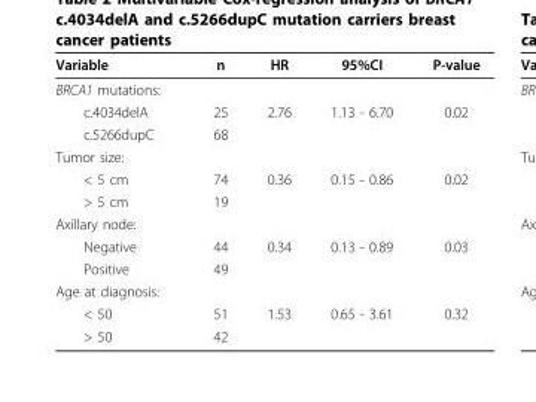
<table><thead><tr><td>Variable</td><td>n</td><td>HR</td><td>95%CI</td><td>P-value</td></tr></thead><tbody><tr><td colspan="5">BRCA1 mutations:</td></tr><tr><td>c.4034delA</td><td>25</td><td>2.76</td><td>1.13 - 6.70</td><td>0.02</td></tr><tr><td>c.5266dupC</td><td>68</td><td></td><td></td><td></td></tr><tr><td colspan="5">Tumor size:</td></tr><tr><td>&lt; 5 cm</td><td>74</td><td>0.36</td><td>0.15 - 0.86</td><td>0.02</td></tr><tr><td>&gt; 5 cm</td><td>19</td><td></td><td></td><td></td></tr><tr><td colspan="5">Axillary node:</td></tr><tr><td>Negative</td><td>44</td><td>0.34</td><td>0.13 - 0.89</td><td>0.03</td></tr><tr><td>Positive</td><td>49</td><td></td><td></td><td></td></tr><tr><td colspan="5">Age at diagnosis:</td></tr><tr><td>&lt; 50</td><td>51</td><td>1.53</td><td>0.65 - 3.61</td><td>0.32</td></tr><tr><td>&gt; 50</td><td>42</td><td></td><td></td><td></td></tr></tbody></table>